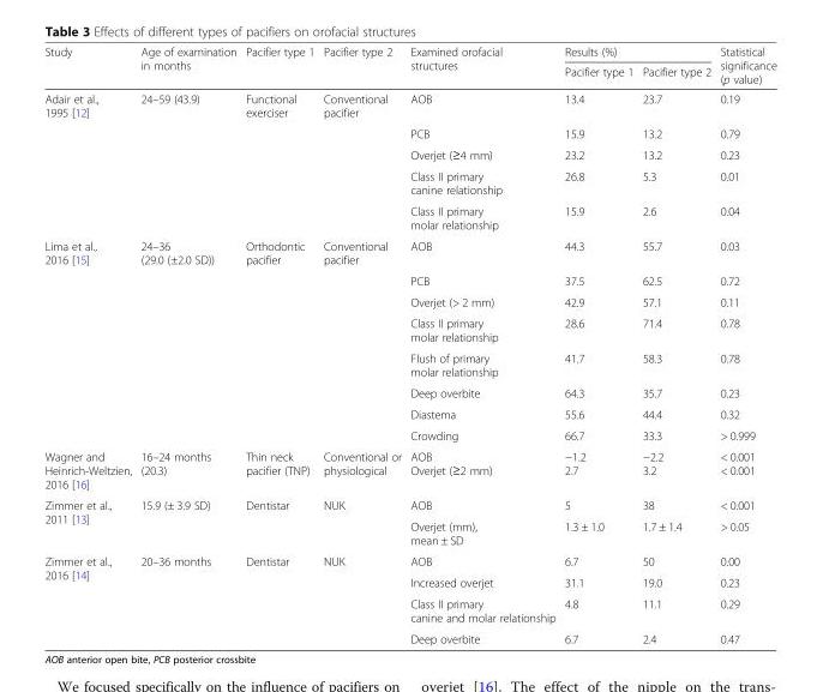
<table><thead><tr><td rowspan="2">Study</td><td rowspan="2">Age of examination in months</td><td rowspan="2">Pacifier type 1</td><td rowspan="2">Pacifier type 2</td><td rowspan="2">Examined orofacial structures</td><td colspan="2">Results (%)</td><td rowspan="2">Statistical significance (p value)</td></tr><tr><td>Pacifier type 1</td><td>Pacifier type 2</td></tr></thead><tbody><tr><td rowspan="5">Adair et al., 1995 [12]</td><td>24–59 (43.9)</td><td>Functional exerciser</td><td>Conventional pacifier</td><td>AOB</td><td>13.4</td><td>23.7</td><td>0.19</td></tr><tr><td></td><td></td><td></td><td>PCB</td><td>15.9</td><td>13.2</td><td>0.79</td></tr><tr><td></td><td></td><td></td><td>Overjet (≥4 mm)</td><td>23.2</td><td>13.2</td><td>0.23</td></tr><tr><td></td><td></td><td></td><td>Class II primary canine relationship</td><td>26.8</td><td>5.3</td><td>0.01</td></tr><tr><td></td><td></td><td></td><td>Class II primary molar relationship</td><td>15.9</td><td>2.6</td><td>0.04</td></tr><tr><td rowspan="8">Lima et al., 2016 [15]</td><td>24–36 (29.0 (±2.0 SD))</td><td>Orthodontic pacifier</td><td>Conventional pacifier</td><td>AOB</td><td>44.3</td><td>55.7</td><td>0.03</td></tr><tr><td></td><td></td><td></td><td>PCB</td><td>37.5</td><td>62.5</td><td>0.72</td></tr><tr><td></td><td></td><td></td><td>Overjet (&gt; 2 mm)</td><td>42.9</td><td>57.1</td><td>0.11</td></tr><tr><td></td><td></td><td></td><td>Class II primary molar relationship</td><td>28.6</td><td>71.4</td><td>0.78</td></tr><tr><td></td><td></td><td></td><td>Flush of primary molar relationship</td><td>41.7</td><td>58.3</td><td>0.78</td></tr><tr><td></td><td></td><td></td><td>Deep overbite</td><td>64.3</td><td>35.7</td><td>0.23</td></tr><tr><td></td><td></td><td></td><td>Diastema</td><td>55.6</td><td>44.4</td><td>0.32</td></tr><tr><td></td><td></td><td></td><td>Crowding</td><td>66.7</td><td>33.3</td><td>&gt; 0.999</td></tr><tr><td>Wagner and Heinrich-Weltzien, 2016 [16]</td><td>16–24 months (20.3)</td><td>Thin neck pacifier (TNP)</td><td>Conventional or physiological</td><td>AOB Overjet (≥2 mm)</td><td>−1.2 2.7</td><td>−2.2 3.2</td><td>&lt; 0.001 &lt; 0.001</td></tr><tr><td rowspan="2">Zimmer et al., 2011 [13]</td><td>15.9 (± 3.9 SD)</td><td>Dentistar</td><td>NUK</td><td>AOB</td><td>5</td><td>38</td><td>&lt; 0.001</td></tr><tr><td></td><td></td><td></td><td>Overjet (mm), mean ± SD</td><td>1.3 ± 1.0</td><td>1.7 ± 1.4</td><td>&gt; 0.05</td></tr><tr><td rowspan="4">Zimmer et al., 2016 [14]</td><td>20–36 months</td><td>Dentistar</td><td>NUK</td><td>AOB</td><td>6.7</td><td>50</td><td>0.00</td></tr><tr><td></td><td></td><td></td><td>Increased overjet</td><td>31.1</td><td>19.0</td><td>0.23</td></tr><tr><td></td><td></td><td></td><td>Class II primary canine and molar relationship</td><td>4.8</td><td>11.1</td><td>0.29</td></tr><tr><td></td><td></td><td></td><td>Deep overbite</td><td>6.7</td><td>2.4</td><td>0.47</td></tr></tbody></table>